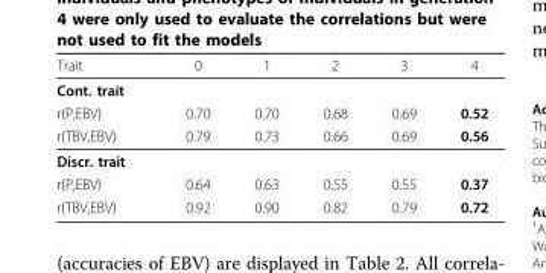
<table><thead><tr><td>Trait</td><td>0</td><td>1</td><td>2</td><td>3</td><td>4</td></tr></thead><tbody><tr><td colspan="6">Cont. trait</td></tr><tr><td>r(P,EBV)</td><td>0.70</td><td>0.70</td><td>0.68</td><td>0.69</td><td>0.52</td></tr><tr><td>r(TBV,EBV)</td><td>0.79</td><td>0.73</td><td>0.66</td><td>0.69</td><td>0.56</td></tr><tr><td colspan="6">Discr. trait</td></tr><tr><td>r(P,EBV)</td><td>0.64</td><td>0.63</td><td>0.55</td><td>0.55</td><td>0.37</td></tr><tr><td>r(TBV,EBV)</td><td>0.92</td><td>0.90</td><td>0.82</td><td>0.79</td><td>0.72</td></tr></tbody></table>